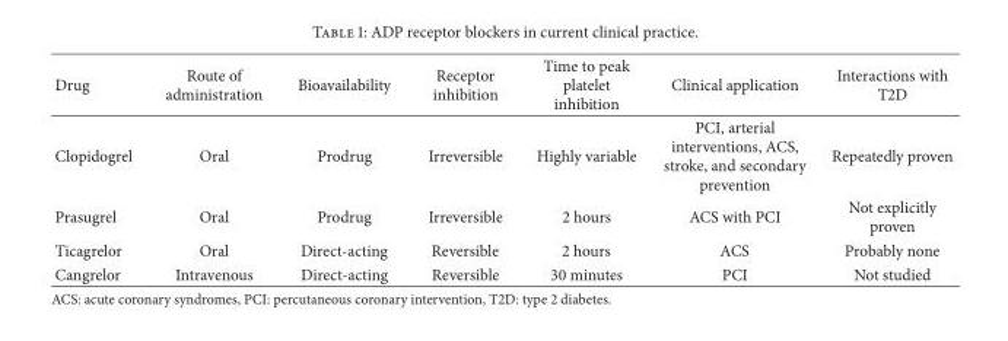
<table><thead><tr><td>Drug</td><td>Route of administration</td><td>Bioavailability</td><td>Receptor inhibition</td><td>Time to peak platelet inhibition</td><td>Clinical application</td><td>Interactions with T2D</td></tr></thead><tbody><tr><td>Clopidogrel</td><td>Oral</td><td>Prodrug</td><td>Irreversible</td><td>Highly variable</td><td>PCI, arterial interventions, ACS, stroke, and secondary prevention</td><td>Repeatedly proven</td></tr><tr><td>Prasugrel</td><td>Oral</td><td>Prodrug</td><td>Irreversible</td><td>2 hours</td><td>ACS with PCI</td><td>Not explicitly proven</td></tr><tr><td>Ticagrelor</td><td>Oral</td><td>Direct-acting</td><td>Reversible</td><td>2 hours</td><td>ACS</td><td>Probably none</td></tr><tr><td>Cangrelor</td><td>Intravenous</td><td>Direct-acting</td><td>Reversible</td><td>30 minutes</td><td>PCI</td><td>Not studied</td></tr></tbody></table>